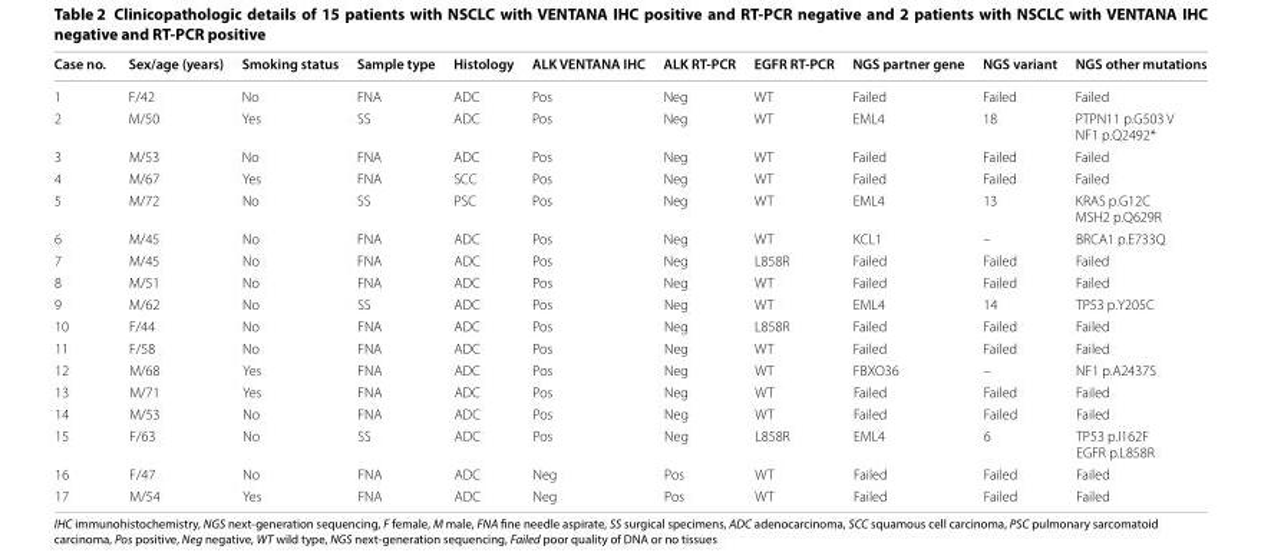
<table><thead><tr><td>Case no.</td><td>Sex/age (years)</td><td>Smoking status</td><td>Sample type</td><td>Histology</td><td>ALK VENTANA IHC</td><td>ALK RT‑PCR</td><td>EGFR RT‑PCR</td><td>NGS partner gene</td><td>NGS variant</td><td>NGS other mutations</td></tr></thead><tbody><tr><td>1</td><td>F/42</td><td>No</td><td>FNA</td><td>ADC</td><td>Pos</td><td>Neg</td><td>WT</td><td>Failed</td><td>Failed</td><td>Failed</td></tr><tr><td>2</td><td>M/50</td><td>Yes</td><td>SS</td><td>ADC</td><td>Pos</td><td>Neg</td><td>WT</td><td>EML4</td><td>18</td><td>PTPN11 p.G503 V NF1 p.Q2492*</td></tr><tr><td>3</td><td>M/53</td><td>No</td><td>FNA</td><td>ADC</td><td>Pos</td><td>Neg</td><td>WT</td><td>Failed</td><td>Failed</td><td>Failed</td></tr><tr><td>4</td><td>M/67</td><td>Yes</td><td>FNA</td><td>SCC</td><td>Pos</td><td>Neg</td><td>WT</td><td>Failed</td><td>Failed</td><td>Failed</td></tr><tr><td>5</td><td>M/72</td><td>No</td><td>SS</td><td>PSC</td><td>Pos</td><td>Neg</td><td>WT</td><td>EML4</td><td>13</td><td>KRAS p.G12C MSH2 p.Q629R</td></tr><tr><td>6</td><td>M/45</td><td>No</td><td>FNA</td><td>ADC</td><td>Pos</td><td>Neg</td><td>WT</td><td>KCL1</td><td>–</td><td>BRCA1 p.E733Q</td></tr><tr><td>7</td><td>M/45</td><td>No</td><td>FNA</td><td>ADC</td><td>Pos</td><td>Neg</td><td>L858R</td><td>Failed</td><td>Failed</td><td>Failed</td></tr><tr><td>8</td><td>M/51</td><td>No</td><td>FNA</td><td>ADC</td><td>Pos</td><td>Neg</td><td>WT</td><td>Failed</td><td>Failed</td><td>Failed</td></tr><tr><td>9</td><td>M/62</td><td>No</td><td>SS</td><td>ADC</td><td>Pos</td><td>Neg</td><td>WT</td><td>EML4</td><td>14</td><td>TP53 p.Y205C</td></tr><tr><td>10</td><td>F/44</td><td>No</td><td>FNA</td><td>ADC</td><td>Pos</td><td>Neg</td><td>L858R</td><td>Failed</td><td>Failed</td><td>Failed</td></tr><tr><td>11</td><td>F/58</td><td>No</td><td>FNA</td><td>ADC</td><td>Pos</td><td>Neg</td><td>WT</td><td>Failed</td><td>Failed</td><td>Failed</td></tr><tr><td>12</td><td>M/68</td><td>Yes</td><td>FNA</td><td>ADC</td><td>Pos</td><td>Neg</td><td>WT</td><td>FBXO36</td><td>–</td><td>NF1 p.A2437S</td></tr><tr><td>13</td><td>M/71</td><td>Yes</td><td>FNA</td><td>ADC</td><td>Pos</td><td>Neg</td><td>WT</td><td>Failed</td><td>Failed</td><td>Failed</td></tr><tr><td>14</td><td>M/53</td><td>No</td><td>FNA</td><td>ADC</td><td>Pos</td><td>Neg</td><td>WT</td><td>Failed</td><td>Failed</td><td>Failed</td></tr><tr><td>15</td><td>F/63</td><td>No</td><td>SS</td><td>ADC</td><td>Pos</td><td>Neg</td><td>L858R</td><td>EML4</td><td>6</td><td>TP53 p.I162F EGFR p.L858R</td></tr><tr><td>16</td><td>F/47</td><td>No</td><td>FNA</td><td>ADC</td><td>Neg</td><td>Pos</td><td>WT</td><td>Failed</td><td>Failed</td><td>Failed</td></tr><tr><td>17</td><td>M/54</td><td>Yes</td><td>FNA</td><td>ADC</td><td>Neg</td><td>Pos</td><td>WT</td><td>Failed</td><td>Failed</td><td>Failed</td></tr></tbody></table>